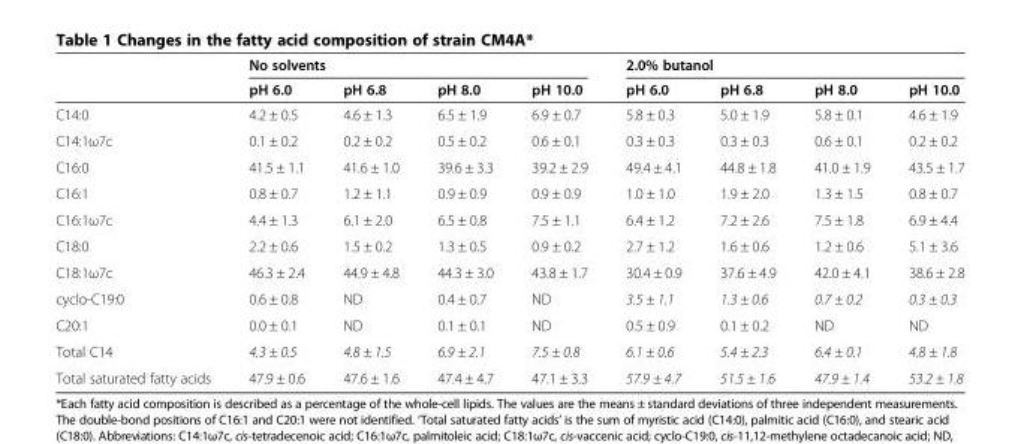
<table><thead><tr><td rowspan="2"></td><td colspan="4">No solvents</td><td colspan="4">2.0% butanol</td></tr><tr><td>pH 6.0</td><td>pH 6.8</td><td>pH 8.0</td><td>pH 10.0</td><td>pH 6.0</td><td>pH 6.8</td><td>pH 8.0</td><td>pH 10.0</td></tr></thead><tbody><tr><td>C14:0</td><td>4.2 ± 0.5</td><td>4.6 ± 1.3</td><td>6.5 ± 1.9</td><td>6.9 ± 0.7</td><td>5.8 ± 0.3</td><td>5.0 ± 1.9</td><td>5.8 ± 0.1</td><td>4.6 ± 1.9</td></tr><tr><td>C14:1ω7c</td><td>0.1 ± 0.2</td><td>0.2 ± 0.2</td><td>0.5 ± 0.2</td><td>0.6 ± 0.1</td><td>0.3 ± 0.3</td><td>0.3 ± 0.3</td><td>0.6 ± 0.1</td><td>0.2 ± 0.2</td></tr><tr><td>C16:0</td><td>41.5 ± 1.1</td><td>41.6 ± 1.0</td><td>39.6 ± 3.3</td><td>39.2 ± 2.9</td><td>49.4 ± 4.1</td><td>44.8 ± 1.8</td><td>41.0 ± 1.9</td><td>43.5 ± 1.7</td></tr><tr><td>C16:1</td><td>0.8 ± 0.7</td><td>1.2 ± 1.1</td><td>0.9 ± 0.9</td><td>0.9 ± 0.9</td><td>1.0 ± 1.0</td><td>1.9 ± 2.0</td><td>1.3 ± 1.5</td><td>0.8 ± 0.7</td></tr><tr><td>C16:1ω7c</td><td>4.4 ± 1.3</td><td>6.1 ± 2.0</td><td>6.5 ± 0.8</td><td>7.5 ± 1.1</td><td>6.4 ± 1.2</td><td>7.2 ± 2.6</td><td>7.5 ± 1.8</td><td>6.9 ± 4.4</td></tr><tr><td>C18:0</td><td>2.2 ± 0.6</td><td>1.5 ± 0.2</td><td>1.3 ± 0.5</td><td>0.9 ± 0.2</td><td>2.7 ± 1.2</td><td>1.6 ± 0.6</td><td>1.2 ± 0.6</td><td>5.1 ± 3.6</td></tr><tr><td>C18:1ω7c</td><td>46.3 ± 2.4</td><td>44.9 ± 4.8</td><td>44.3 ± 3.0</td><td>43.8 ± 1.7</td><td>30.4 ± 0.9</td><td>37.6 ± 4.9</td><td>42.0 ± 4.1</td><td>38.6 ± 2.8</td></tr><tr><td>cyclo-C19:0</td><td>0.6 ± 0.8</td><td>ND</td><td>0.4 ± 0.7</td><td>ND</td><td>3.5 ± 1.1</td><td>1.3 ± 0.6</td><td>0.7 ± 0.2</td><td>0.3 ± 0.3</td></tr><tr><td>C20:1</td><td>0.0 ± 0.1</td><td>ND</td><td>0.1 ± 0.1</td><td>ND</td><td>0.5 ± 0.9</td><td>0.1 ± 0.2</td><td>ND</td><td>ND</td></tr><tr><td>Total C14</td><td>4.3 ± 0.5</td><td>4.8 ± 1.5</td><td>6.9 ± 2.1</td><td>7.5 ± 0.8</td><td>6.1 ± 0.6</td><td>5.4 ± 2.3</td><td>6.4 ± 0.1</td><td>4.8 ± 1.8</td></tr><tr><td>Total saturated fatty acids</td><td>47.9 ± 0.6</td><td>47.6 ± 1.6</td><td>47.4 ± 4.7</td><td>47.1 ± 3.3</td><td>57.9 ± 4.7</td><td>51.5 ± 1.6</td><td>47.9 ± 1.4</td><td>53.2 ± 1.8</td></tr></tbody></table>